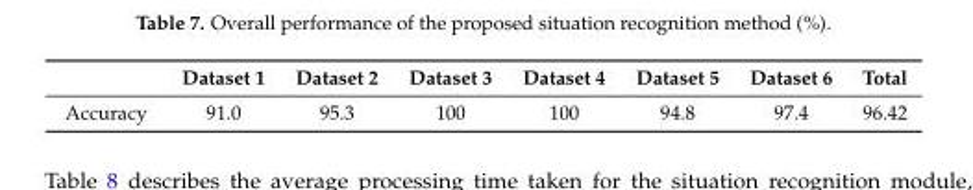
<table><thead><tr><td></td><td>Dataset 1</td><td>Dataset 2</td><td>Dataset 3</td><td>Dataset 4</td><td>Dataset 5</td><td>Dataset 6</td><td>Total</td></tr></thead><tbody><tr><td>Accuracy</td><td>91.0</td><td>95.3</td><td>100</td><td>100</td><td>94.8</td><td>97.4</td><td>96.42</td></tr></tbody></table>